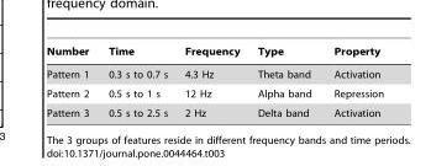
<table><thead><tr><td>Number</td><td>Time</td><td>Frequency</td><td>Type</td><td>Property</td></tr></thead><tbody><tr><td>Pattern 1</td><td>0.3 s to 0.7 s</td><td>4.3 Hz</td><td>Theta band</td><td>Activation</td></tr><tr><td>Pattern 2</td><td>0.5 s to 1 s</td><td>12 Hz</td><td>Alpha band</td><td>Repression</td></tr><tr><td>Pattern 3</td><td>0.5 s to 2.5 s</td><td>2 Hz</td><td>Delta band</td><td>Activation</td></tr></tbody></table>